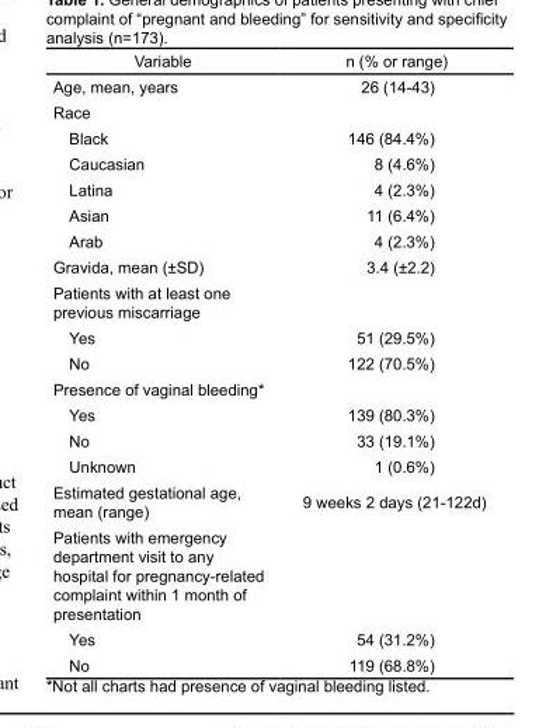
<table><thead><tr><td>Variable</td><td>n (% or range)</td></tr></thead><tbody><tr><td>Age, mean, years</td><td>26 (14-43)</td></tr><tr><td colspan="2">Race</td></tr><tr><td>Black</td><td>146 (84.4%)</td></tr><tr><td>Caucasian</td><td>8 (4.6%)</td></tr><tr><td>Latina</td><td>4 (2.3%)</td></tr><tr><td>Asian</td><td>11 (6.4%)</td></tr><tr><td>Arab</td><td>4 (2.3%)</td></tr><tr><td>Gravida, mean (±SD)</td><td>3.4 (±2.2)</td></tr><tr><td colspan="2">Patients with at least one previous miscarriage</td></tr><tr><td>Yes</td><td>51 (29.5%)</td></tr><tr><td>No</td><td>122 (70.5%)</td></tr><tr><td colspan="2">Presence of vaginal bleeding*</td></tr><tr><td>Yes</td><td>139 (80.3%)</td></tr><tr><td>No</td><td>33 (19.1%)</td></tr><tr><td>Unknown</td><td>1 (0.6%)</td></tr><tr><td>Estimated gestational age, mean (range)</td><td>9 weeks 2 days (21-122d)</td></tr><tr><td colspan="2">Patients with emergency department visit to any hospital for pregnancy-related complaint within 1 month of presentation</td></tr><tr><td>Yes</td><td>54 (31.2%)</td></tr><tr><td>No</td><td>119 (68.8%)</td></tr></tbody></table>